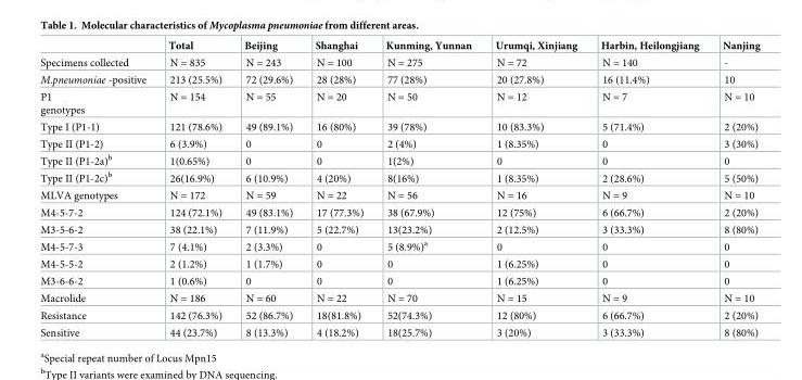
<table><thead><tr><td></td><td>Total</td><td>Beijing</td><td>Shanghai</td><td>Kunming, Yunnan</td><td>Urumqi, Xinjiang</td><td>Harbin, Heilongjiang</td><td>Nanjing</td></tr></thead><tbody><tr><td>Specimens collected</td><td>N = 835</td><td>N = 243</td><td>N = 100</td><td>N = 275</td><td>N = 72</td><td>N = 140</td><td>-</td></tr><tr><td>M.pneumoniae -positive</td><td>213 (25.5%)</td><td>72 (29.6%)</td><td>28 (28%)</td><td>77 (28%)</td><td>20 (27.8%)</td><td>16 (11.4%)</td><td>10</td></tr><tr><td>P1 genotypes</td><td>N = 154</td><td>N = 55</td><td>N = 20</td><td>N = 50</td><td>N = 12</td><td>N = 7</td><td>N = 10</td></tr><tr><td>Type I (P1-1)</td><td>121 (78.6%)</td><td>49 (89.1%)</td><td>16 (80%)</td><td>39 (78%)</td><td>10 (83.3%)</td><td>5 (71.4%)</td><td>2 (20%)</td></tr><tr><td>Type II (P1-2)</td><td>6 (3.9%)</td><td>0</td><td>0</td><td>2 (4%)</td><td>1 (8.35%)</td><td>0</td><td>3 (30%)</td></tr><tr><td>Type II (P1-2a)<sup>b</sup></td><td>1(0.65%)</td><td>0</td><td>0</td><td>1(2%)</td><td>0</td><td>0</td><td>0</td></tr><tr><td>Type II (P1-2c)<sup>b</sup></td><td>26(16.9%)</td><td>6 (10.9%)</td><td>4 (20%)</td><td>8(16%)</td><td>1 (8.35%)</td><td>2 (28.6%)</td><td>5 (50%)</td></tr><tr><td>MLVA genotypes</td><td>N = 172</td><td>N = 59</td><td>N = 22</td><td>N = 56</td><td>N = 16</td><td>N = 9</td><td>N = 10</td></tr><tr><td>M4-5-7-2</td><td>124 (72.1%)</td><td>49 (83.1%)</td><td>17 (77.3%)</td><td>38 (67.9%)</td><td>12 (75%)</td><td>6 (66.7%)</td><td>2 (20%)</td></tr><tr><td>M3-5-6-2</td><td>38 (22.1%)</td><td>7 (11.9%)</td><td>5 (22.7%)</td><td>13(23.2%)</td><td>2 (12.5%)</td><td>3 (33.3%)</td><td>8 (80%)</td></tr><tr><td>M4-5-7-3</td><td>7 (4.1%)</td><td>2 (3.3%)</td><td>0</td><td>5 (8.9%)<sup>a</sup></td><td>0</td><td>0</td><td>0</td></tr><tr><td>M4-5-5-2</td><td>2 (1.2%)</td><td>1 (1.7%)</td><td>0</td><td>0</td><td>1 (6.25%)</td><td>0</td><td>0</td></tr><tr><td>M3-6-6-2</td><td>1 (0.6%)</td><td>0</td><td>0</td><td>0</td><td>1 (6.25%)</td><td>0</td><td>0</td></tr><tr><td>Macrolide</td><td>N = 186</td><td>N = 60</td><td>N = 22</td><td>N = 70</td><td>N = 15</td><td>N = 9</td><td>N = 10</td></tr><tr><td>Resistance</td><td>142 (76.3%)</td><td>52 (86.7%)</td><td>18(81.8%)</td><td>52(74.3%)</td><td>12 (80%)</td><td>6 (66.7%)</td><td>2 (20%)</td></tr><tr><td>Sensitive</td><td>44 (23.7%)</td><td>8 (13.3%)</td><td>4 (18.2%)</td><td>18(25.7%)</td><td>3 (20%)</td><td>3 (33.3%)</td><td>8 (80%)</td></tr></tbody></table>